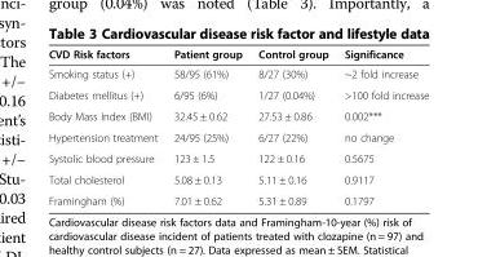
<table><thead><tr><td>CVD Risk factors</td><td>Patient group</td><td>Control group</td><td>Significance</td></tr></thead><tbody><tr><td>Smoking status (+)</td><td>58/95 (61%)</td><td>8/27 (30%)</td><td>~2 fold increase</td></tr><tr><td>Diabetes mellitus (+)</td><td>6/95 (6%)</td><td>1/27 (0.04%)</td><td>&gt;100 fold increase</td></tr><tr><td>Body Mass Index (BMI)</td><td>32.45 ± 0.62</td><td>27.53 ± 0.86</td><td>0.002***</td></tr><tr><td>Hypertension treatment</td><td>24/95 (25%)</td><td>6/27 (22%)</td><td>no change</td></tr><tr><td>Systolic blood pressure</td><td>123 ± 1.5</td><td>122 ± 0.16</td><td>0.5675</td></tr><tr><td>Total cholesterol</td><td>5.08 ± 0.13</td><td>5.11 ± 0.16</td><td>0.9117</td></tr><tr><td>Framingham (%)</td><td>7.01 ± 0.62</td><td>5.31 ± 0.89</td><td>0.1797</td></tr></tbody></table>